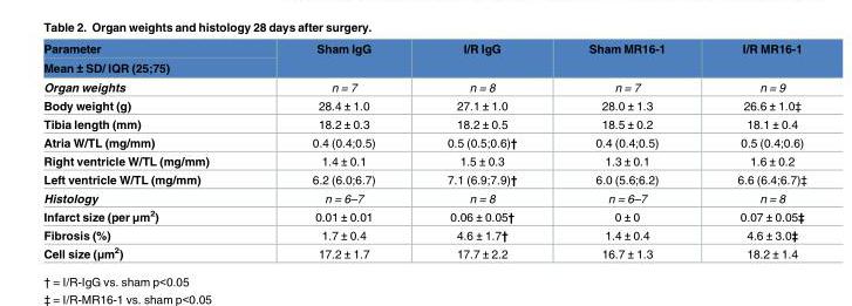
<table><thead><tr><td rowspan="2">Parameter Mean ± SD/ IQR (25;75)</td><td rowspan="2">Sham IgG</td><td rowspan="2">I/R IgG</td><td rowspan="2">Sham MR16-1</td><td rowspan="2">I/R MR16-1</td></tr><tr></tr></thead><tbody><tr><td>Organ weights</td><td>n = 7</td><td>n = 8</td><td>n = 7</td><td>n = 9</td></tr><tr><td>Body weight (g)</td><td>28.4 ± 1.0</td><td>27.1 ± 1.0</td><td>28.0 ± 1.3</td><td>26.6 ± 1.0‡</td></tr><tr><td>Tibia length (mm)</td><td>18.2 ± 0.3</td><td>18.2 ± 0.5</td><td>18.5 ± 0.2</td><td>18.1 ± 0.4</td></tr><tr><td>Atria W/TL (mg/mm)</td><td>0.4 (0.4;0.5)</td><td>0.5 (0.5;0.6)†</td><td>0.4 (0.4;0.5)</td><td>0.5 (0.4;0.6)</td></tr><tr><td>Right ventricle W/TL (mg/mm)</td><td>1.4 ± 0.1</td><td>1.5 ± 0.3</td><td>1.3 ± 0.1</td><td>1.6 ± 0.2</td></tr><tr><td>Left ventricle W/TL (mg/mm)</td><td>6.2 (6.0;6.7)</td><td>7.1 (6.9;7.9)†</td><td>6.0 (5.6;6.2)</td><td>6.6 (6.4;6.7)‡</td></tr><tr><td>Histology</td><td>n = 6–7</td><td>n = 8</td><td>n = 6–7</td><td>n = 8</td></tr><tr><td>Infarct size (per μm<sup>2</sup>)</td><td>0.01 ± 0.01</td><td>0.06 ± 0.05†</td><td>0 ± 0</td><td>0.07 ± 0.05‡</td></tr><tr><td>Fibrosis (%)</td><td>1.7 ± 0.4</td><td>4.6 ± 1.7†</td><td>1.4 ± 0.4</td><td>4.6 ± 3.0‡</td></tr><tr><td>Cell size (μm<sup>2</sup>)</td><td>17.2 ± 1.7</td><td>17.7 ± 2.2</td><td>16.7 ± 1.3</td><td>18.2 ± 1.4</td></tr></tbody></table>